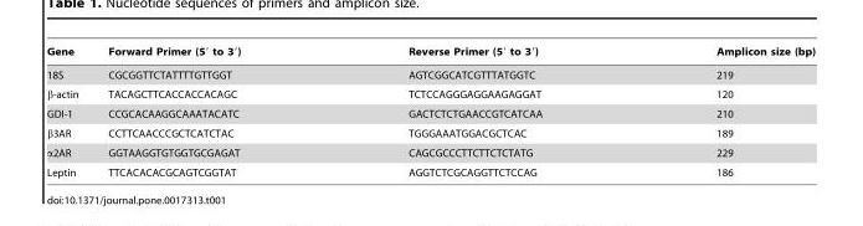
<table><thead><tr><td>Gene</td><td>Forward Primer (5′ to 3′)</td><td>Reverse Primer (5′ to 3′)</td><td>Amplicon size (bp)</td></tr></thead><tbody><tr><td>18S</td><td>CGCGGTTCTATTTTGTTGGT</td><td>AGTCGGCATCGTTTATGGTC</td><td>219</td></tr><tr><td>β-actin</td><td>TACAGCTTCACCACCACAGC</td><td>TCTCCAGGGAGGAAGAGGAT</td><td>120</td></tr><tr><td>GDI-1</td><td>CCGCACAAGGCAAATACATC</td><td>GACTCTCTGAACCGTCATCAA</td><td>210</td></tr><tr><td>β3AR</td><td>CCTTCAACCCGCTCATCTAC</td><td>TGGGAAATGGACGCTCAC</td><td>189</td></tr><tr><td>α2AR</td><td>GGTAAGGTGTGGTGCGAGAT</td><td>CAGCGCCCTTCTTCTCTATG</td><td>229</td></tr><tr><td>Leptin</td><td>TTCACACACGCAGTCGGTAT</td><td>AGGTCTCGCAGGTTCTCCAG</td><td>186</td></tr></tbody></table>